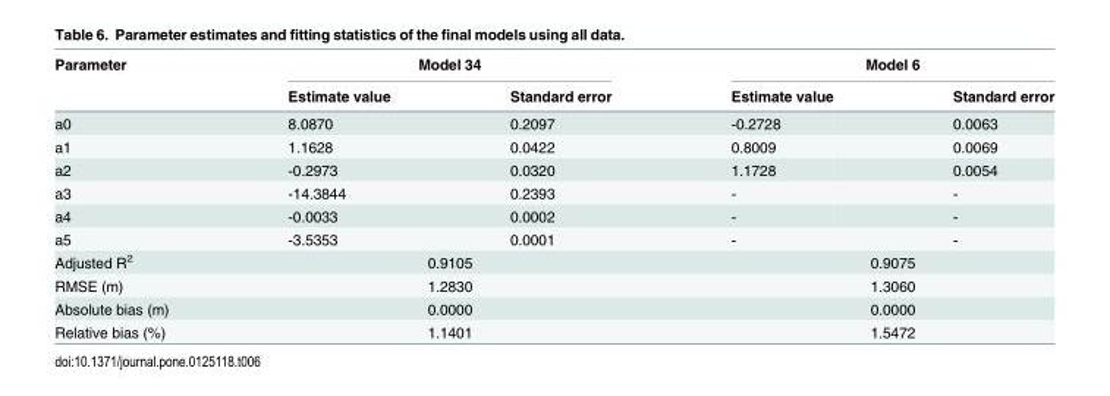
<table><thead><tr><td rowspan="2">Parameter</td><td colspan="2">Model 34</td><td colspan="2">Model 6</td></tr><tr><td>Estimate value</td><td>Standard error</td><td>Estimate value</td><td>Standard error</td></tr></thead><tbody><tr><td>a0</td><td>8.0870</td><td>0.2097</td><td>-0.2728</td><td>0.0063</td></tr><tr><td>a1</td><td>1.1628</td><td>0.0422</td><td>0.8009</td><td>0.0069</td></tr><tr><td>a2</td><td>-0.2973</td><td>0.0320</td><td>1.1728</td><td>0.0054</td></tr><tr><td>a3</td><td>-14.3844</td><td>0.2393</td><td>-</td><td>-</td></tr><tr><td>a4</td><td>-0.0033</td><td>0.0002</td><td>-</td><td>-</td></tr><tr><td>a5</td><td>-3.5353</td><td>0.0001</td><td>-</td><td>-</td></tr><tr><td>Adjusted R<sup>2</sup></td><td colspan="2">0.9105</td><td colspan="2">0.9075</td></tr><tr><td>RMSE (m)</td><td colspan="2">1.2830</td><td colspan="2">1.3060</td></tr><tr><td>Absolute bias (m)</td><td colspan="2">0.0000</td><td colspan="2">0.0000</td></tr><tr><td>Relative bias (%)</td><td colspan="2">1.1401</td><td colspan="2">1.5472</td></tr></tbody></table>